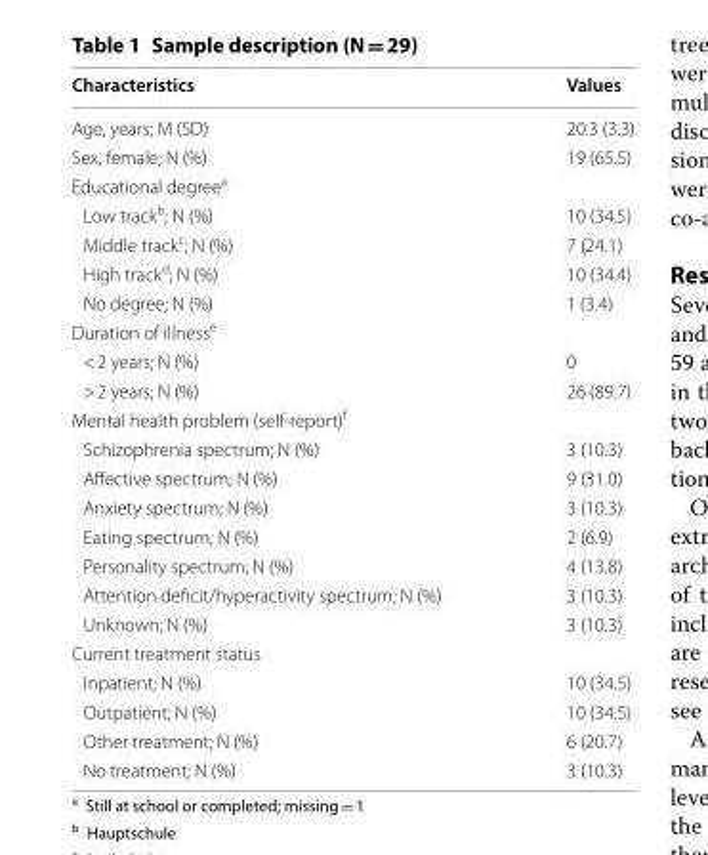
<table><thead><tr><td>Characteristics</td><td>Values</td></tr></thead><tbody><tr><td>Age, years; M (SD)</td><td>20.3 (3.3)</td></tr><tr><td>Sex, female; N (%)</td><td>19 (65.5)</td></tr><tr><td colspan="2">Educational degree<sup>a</sup></td></tr><tr><td>Low track<sup>b</sup>; N (%)</td><td>10 (34.5)</td></tr><tr><td>Middle track<sup>c</sup>; N (%)</td><td>7 (24.1)</td></tr><tr><td>High track<sup>d</sup>; N (%)</td><td>10 (34.4)</td></tr><tr><td>No degree; N (%)</td><td>1 (3.4)</td></tr><tr><td colspan="2">Duration of illness<sup>e</sup></td></tr><tr><td>&lt; 2 years; N (%)</td><td>0</td></tr><tr><td>&gt; 2 years; N (%)</td><td>26 (89.7)</td></tr><tr><td colspan="2">Mental health problem (self-report)<sup>f</sup></td></tr><tr><td>Schizophrenia spectrum; N (%)</td><td>3 (10.3)</td></tr><tr><td>Affective spectrum; N (%)</td><td>9 (31.0)</td></tr><tr><td>Anxiety spectrum; N (%)</td><td>3 (10.3)</td></tr><tr><td>Eating spectrum; N (%)</td><td>2 (6.9)</td></tr><tr><td>Personality spectrum; N (%)</td><td>4 (13.8)</td></tr><tr><td>Attention deficit/hyperactivity spectrum; N (%)</td><td>3 (10.3)</td></tr><tr><td>Unknown; N (%)</td><td>3 (10.3)</td></tr><tr><td colspan="2">Current treatment status</td></tr><tr><td>Inpatient; N (%)</td><td>10 (34.5)</td></tr><tr><td>Outpatient; N (%)</td><td>10 (34.5)</td></tr><tr><td>Other treatment; N (%)</td><td>6 (20.7)</td></tr><tr><td>No treatment; N (%)</td><td>3 (10.3)</td></tr></tbody></table>